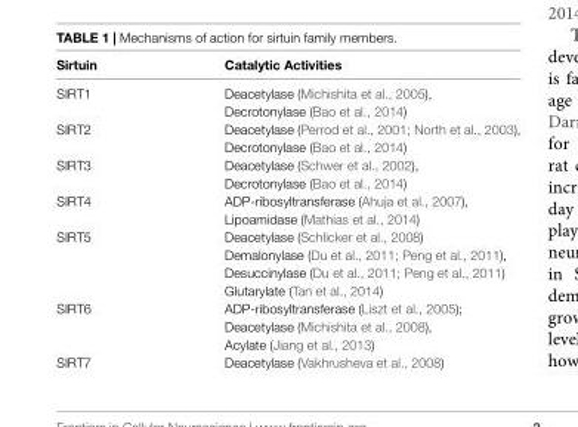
<table><thead><tr><td>Sirtuin</td><td>Catalytic Activities</td></tr></thead><tbody><tr><td rowspan="2">SIRT1</td><td>Deacetylase (Michishita et al., 2005),</td></tr><tr><td>Decrotonylase (Bao et al., 2014)</td></tr><tr><td rowspan="2">SIRT2</td><td>Deacetylase (Perrod et al., 2001; North et al., 2003),</td></tr><tr><td>Decrotonylase (Bao et al., 2014)</td></tr><tr><td rowspan="2">SIRT3</td><td>Deacetylase (Schwer et al., 2002),</td></tr><tr><td>Decrotonylase (Bao et al., 2014)</td></tr><tr><td rowspan="2">SIRT4</td><td>ADP-ribosyltransferase (Ahuja et al., 2007),</td></tr><tr><td>Lipoamidase (Mathias et al., 2014)</td></tr><tr><td rowspan="4">SIRT5</td><td>Deacetylase (Schlicker et al., 2008)</td></tr><tr><td>Demalonylase (Du et al., 2011; Peng et al., 2011),</td></tr><tr><td>Desuccinylase (Du et al., 2011; Peng et al., 2011)</td></tr><tr><td>Glutarylate (Tan et al., 2014)</td></tr><tr><td rowspan="3">SIRT6</td><td>ADP-ribosyltransferase (Liszt et al., 2005);</td></tr><tr><td>Deacetylase (Michishita et al., 2008),</td></tr><tr><td>Acylate (Jiang et al., 2013)</td></tr><tr><td>SIRT7</td><td>Deacetylase (Vakhrusheva et al., 2008)</td></tr></tbody></table>